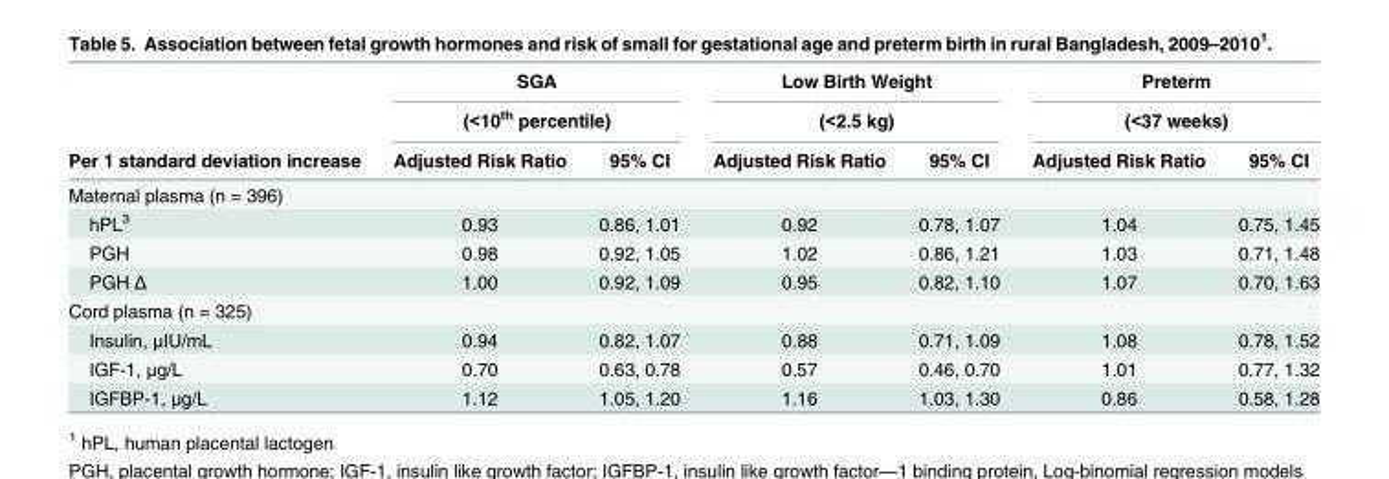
<table><thead><tr><td rowspan="3">Per 1 standard deviation increase</td><td rowspan="2" colspan="2">SGA (&lt;10<sup>th</sup> percentile)</td><td rowspan="2" colspan="2">Low Birth Weight (&lt;2.5 kg)</td><td rowspan="2" colspan="2">Preterm (&lt;37 weeks)</td></tr><tr></tr><tr><td>Adjusted Risk Ratio</td><td>95% CI</td><td>Adjusted Risk Ratio</td><td>95% CI</td><td>Adjusted Risk Ratio</td><td>95% CI</td></tr></thead><tbody><tr><td colspan="7">Maternal plasma (n = 396)</td></tr><tr><td>hPL<sup>3</sup></td><td>0.93</td><td>0.86, 1.01</td><td>0.92</td><td>0.78, 1.07</td><td>1.04</td><td>0.75, 1.45</td></tr><tr><td>PGH</td><td>0.98</td><td>0.92, 1.05</td><td>1.02</td><td>0.86, 1.21</td><td>1.03</td><td>0.71, 1.48</td></tr><tr><td>PGH Δ</td><td>1.00</td><td>0.92, 1.09</td><td>0.95</td><td>0.82, 1.10</td><td>1.07</td><td>0.70, 1.63</td></tr><tr><td colspan="7">Cord plasma (n = 325)</td></tr><tr><td>Insulin, μIU/mL</td><td>0.94</td><td>0.82, 1.07</td><td>0.88</td><td>0.71, 1.09</td><td>1.08</td><td>0.78, 1.52</td></tr><tr><td>IGF-1, μg/L</td><td>0.70</td><td>0.63, 0.78</td><td>0.57</td><td>0.46, 0.70</td><td>1.01</td><td>0.77, 1.32</td></tr><tr><td>IGFBP-1, μg/L</td><td>1.12</td><td>1.05, 1.20</td><td>1.16</td><td>1.03, 1.30</td><td>0.86</td><td>0.58, 1.28</td></tr></tbody></table>